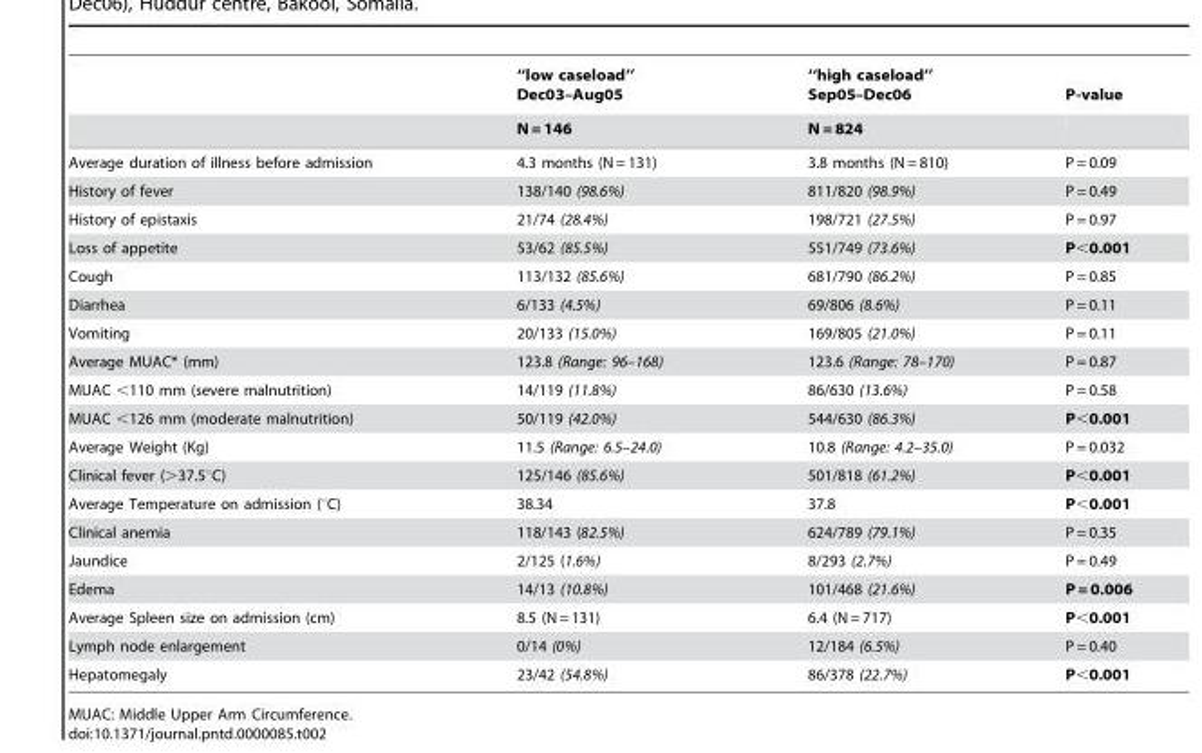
<table><thead><tr><td rowspan="2"></td><td rowspan="2">‘‘low caseload’’ Dec03–Aug05 N = 146</td><td rowspan="2">‘‘high caseload’’ Sep05–Dec06 N = 824</td><td rowspan="2">P-value</td></tr><tr></tr></thead><tbody><tr><td>Average duration of illness before admission</td><td>4.3 months (N = 131)</td><td>3.8 months (N = 810)</td><td>P = 0.09</td></tr><tr><td>History of fever</td><td>138/140 (98.6%)</td><td>811/820 (98.9%)</td><td>P = 0.49</td></tr><tr><td>History of epistaxis</td><td>21/74 (28.4%)</td><td>198/721 (27.5%)</td><td>P = 0.97</td></tr><tr><td>Loss of appetite</td><td>53/62 (85.5%)</td><td>551/749 (73.6%)</td><td>P&lt;0.001</td></tr><tr><td>Cough</td><td>113/132 (85.6%)</td><td>681/790 (86.2%)</td><td>P = 0.85</td></tr><tr><td>Diarrhea</td><td>6/133 (4.5%)</td><td>69/806 (8.6%)</td><td>P = 0.11</td></tr><tr><td>Vomiting</td><td>20/133 (15.0%)</td><td>169/805 (21.0%)</td><td>P = 0.11</td></tr><tr><td>Average MUAC* (mm)</td><td>123.8 (Range: 96–168)</td><td>123.6 (Range: 78–170)</td><td>P = 0.87</td></tr><tr><td>MUAC &lt;110 mm (severe malnutrition)</td><td>14/119 (11.8%)</td><td>86/630 (13.6%)</td><td>P = 0.58</td></tr><tr><td>MUAC &lt;126 mm (moderate malnutrition)</td><td>50/119 (42.0%)</td><td>544/630 (86.3%)</td><td>P&lt;0.001</td></tr><tr><td>Average Weight (Kg)</td><td>11.5 (Range: 6.5–24.0)</td><td>10.8 (Range: 4.2–35.0)</td><td>P = 0.032</td></tr><tr><td>Clinical fever (&gt;37.5°C)</td><td>125/146 (85.6%)</td><td>501/818 (61.2%)</td><td>P&lt;0.001</td></tr><tr><td>Average Temperature on admission (°C)</td><td>38.34</td><td>37.8</td><td>P&lt;0.001</td></tr><tr><td>Clinical anemia</td><td>118/143 (82.5%)</td><td>624/789 (79.1%)</td><td>P = 0.35</td></tr><tr><td>Jaundice</td><td>2/125 (1.6%)</td><td>8/293 (2.7%)</td><td>P = 0.49</td></tr><tr><td>Edema</td><td>14/13 (10.8%)</td><td>101/468 (21.6%)</td><td>P = 0.006</td></tr><tr><td>Average Spleen size on admission (cm)</td><td>8.5 (N = 131)</td><td>6.4 (N = 717)</td><td>P&lt;0.001</td></tr><tr><td>Lymph node enlargement</td><td>0/14 (0%)</td><td>12/184 (6.5%)</td><td>P = 0.40</td></tr><tr><td>Hepatomegaly</td><td>23/42 (54.8%)</td><td>86/378 (22.7%)</td><td>P&lt;0.001</td></tr></tbody></table>